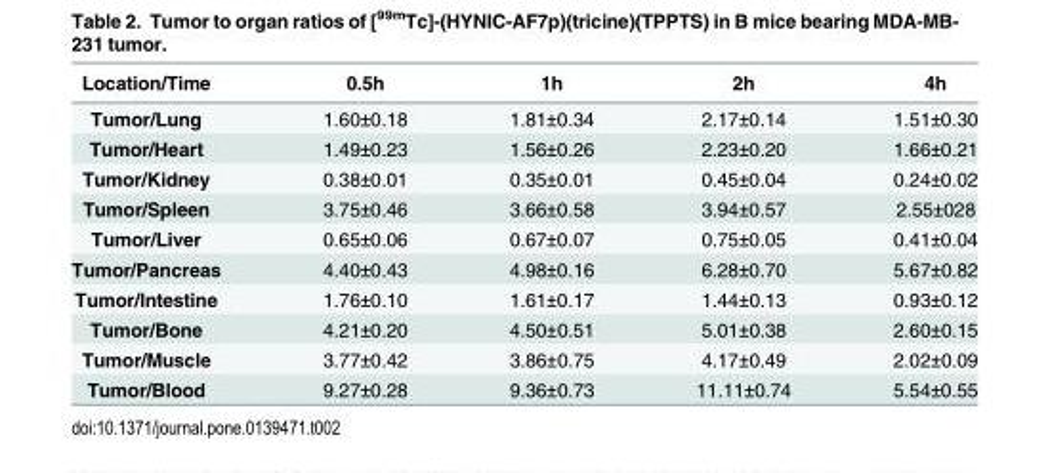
<table><thead><tr><td>Location/Time</td><td>0.5h</td><td>1h</td><td>2h</td><td>4h</td></tr></thead><tbody><tr><td>Tumor/Lung</td><td>1.60±0.18</td><td>1.81±0.34</td><td>2.17±0.14</td><td>1.51±0.30</td></tr><tr><td>Tumor/Heart</td><td>1.49±0.23</td><td>1.56±0.26</td><td>2.23±0.20</td><td>1.66±0.21</td></tr><tr><td>Tumor/Kidney</td><td>0.38±0.01</td><td>0.35±0.01</td><td>0.45±0.04</td><td>0.24±0.02</td></tr><tr><td>Tumor/Spleen</td><td>3.75±0.46</td><td>3.66±0.58</td><td>3.94±0.57</td><td>2.55±028</td></tr><tr><td>Tumor/Liver</td><td>0.65±0.06</td><td>0.67±0.07</td><td>0.75±0.05</td><td>0.41±0.04</td></tr><tr><td>Tumor/Pancreas</td><td>4.40±0.43</td><td>4.98±0.16</td><td>6.28±0.70</td><td>5.67±0.82</td></tr><tr><td>Tumor/Intestine</td><td>1.76±0.10</td><td>1.61±0.17</td><td>1.44±0.13</td><td>0.93±0.12</td></tr><tr><td>Tumor/Bone</td><td>4.21±0.20</td><td>4.50±0.51</td><td>5.01±0.38</td><td>2.60±0.15</td></tr><tr><td>Tumor/Muscle</td><td>3.77±0.42</td><td>3.86±0.75</td><td>4.17±0.49</td><td>2.02±0.09</td></tr><tr><td>Tumor/Blood</td><td>9.27±0.28</td><td>9.36±0.73</td><td>11.11±0.74</td><td>5.54±0.55</td></tr></tbody></table>